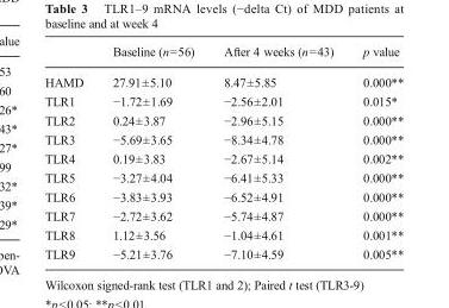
<table><thead><tr><td></td><td>Baseline (n=56)</td><td>After 4 weeks (n=43)</td><td>p value</td></tr></thead><tbody><tr><td>HAMD</td><td>27.91±5.10</td><td>8.47±5.85</td><td>0.000**</td></tr><tr><td>TLR1</td><td>−1.72±1.69</td><td>−2.56±2.01</td><td>0.015*</td></tr><tr><td>TLR2</td><td>0.24±3.87</td><td>−2.96±5.15</td><td>0.000**</td></tr><tr><td>TLR3</td><td>−5.69±3.65</td><td>−8.34±4.78</td><td>0.000**</td></tr><tr><td>TLR4</td><td>0.19±3.83</td><td>−2.67±5.14</td><td>0.002**</td></tr><tr><td>TLR5</td><td>−3.27±4.04</td><td>−6.41±5.33</td><td>0.000**</td></tr><tr><td>TLR6</td><td>−3.83±3.93</td><td>−6.52±4.91</td><td>0.000**</td></tr><tr><td>TLR7</td><td>−2.72±3.62</td><td>−5.74±4.87</td><td>0.000**</td></tr><tr><td>TLR8</td><td>1.12±3.56</td><td>−1.04±4.61</td><td>0.001**</td></tr><tr><td>TLR9</td><td>−5.21±3.76</td><td>−7.10±4.59</td><td>0.005**</td></tr></tbody></table>